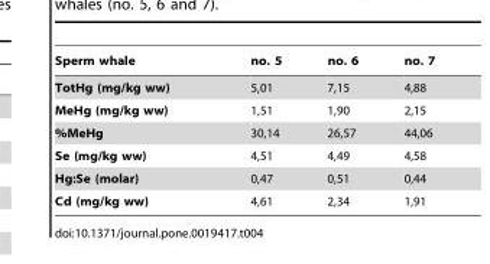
<table><thead><tr><td>Sperm whale</td><td>no. 5</td><td>no. 6</td><td>no. 7</td></tr></thead><tbody><tr><td>TotHg (mg/kg ww)</td><td>5,01</td><td>7,15</td><td>4,88</td></tr><tr><td>MeHg (mg/kg ww)</td><td>1,51</td><td>1,90</td><td>2,15</td></tr><tr><td>%MeHg</td><td>30,14</td><td>26,57</td><td>44,06</td></tr><tr><td>Se (mg/kg ww)</td><td>4,51</td><td>4,49</td><td>4,58</td></tr><tr><td>Hg:Se (molar)</td><td>0,47</td><td>0,51</td><td>0,44</td></tr><tr><td>Cd (mg/kg ww)</td><td>4,61</td><td>2,34</td><td>1,91</td></tr></tbody></table>